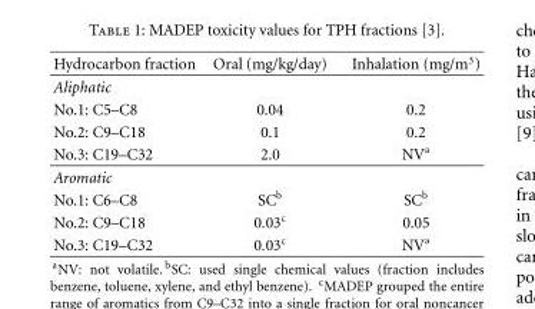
<table><thead><tr><td>Hydrocarbon fraction</td><td>Oral (mg/kg/day)</td><td>Inhalation (mg/m<sup>3</sup>)</td></tr></thead><tbody><tr><td colspan="3">Aliphatic</td></tr><tr><td>No.1: C5–C8</td><td>0.04</td><td>0.2</td></tr><tr><td>No.2: C9–C18</td><td>0.1</td><td>0.2</td></tr><tr><td>No.3: C19–C32</td><td>2.0</td><td>NV<sup>a</sup></td></tr><tr><td colspan="3">Aromatic</td></tr><tr><td>No.1: C6–C8</td><td>SC<sup>b</sup></td><td>SC<sup>b</sup></td></tr><tr><td>No.2: C9–C18</td><td>0.03<sup>c</sup></td><td>0.05</td></tr><tr><td>No.3: C19–C32</td><td>0.03<sup>c</sup></td><td>NV<sup>a</sup></td></tr></tbody></table>